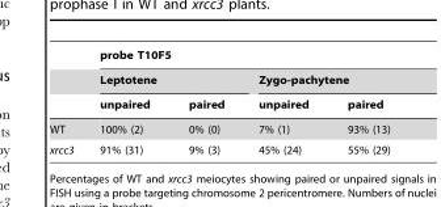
<table><thead><tr><td rowspan="3"></td><td colspan="4">probe T10F5</td></tr><tr><td colspan="2">Leptotene</td><td colspan="2">Zygo-pachytene</td></tr><tr><td>unpaired</td><td>paired</td><td>unpaired</td><td>paired</td></tr></thead><tbody><tr><td>WT</td><td>100% (2)</td><td>0% (0)</td><td>7% (1)</td><td>93% (13)</td></tr><tr><td>xrcc3</td><td>91% (31)</td><td>9% (3)</td><td>45% (24)</td><td>55% (29)</td></tr></tbody></table>